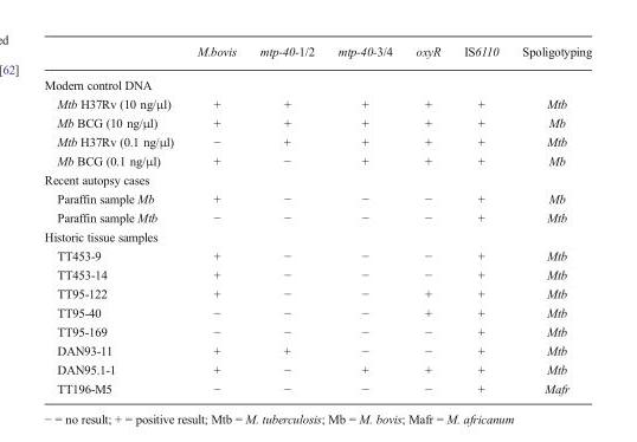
<table><thead><tr><td></td><td>M.bovis</td><td>mtp-40-1/2</td><td>mtp-40-3/4</td><td>oxyR</td><td>IS6110</td><td>Spoligotyping</td></tr></thead><tbody><tr><td colspan="7">Modern control DNA</td></tr><tr><td>Mtb H37Rv (10 ng/μl)</td><td>+</td><td>+</td><td>+</td><td>+</td><td>+</td><td>Mtb</td></tr><tr><td>Mb BCG (10 ng/μl)</td><td>+</td><td>+</td><td>+</td><td>+</td><td>+</td><td>Mb</td></tr><tr><td>Mtb H37Rv (0.1 ng/μl)</td><td>−</td><td>+</td><td>+</td><td>+</td><td>+</td><td>Mtb</td></tr><tr><td>Mb BCG (0.1 ng/μl)</td><td>+</td><td>−</td><td>+</td><td>+</td><td>+</td><td>Mb</td></tr><tr><td colspan="7">Recent autopsy cases</td></tr><tr><td>Paraffin sample Mb</td><td>+</td><td>−</td><td>−</td><td>−</td><td>+</td><td>Mb</td></tr><tr><td>Paraffin sample Mtb</td><td>−</td><td>−</td><td>−</td><td>−</td><td>+</td><td>Mtb</td></tr><tr><td colspan="7">Historic tissue samples</td></tr><tr><td>TT453-9</td><td>+</td><td>−</td><td>−</td><td>−</td><td>+</td><td>Mtb</td></tr><tr><td>TT453-14</td><td>+</td><td>−</td><td>−</td><td>−</td><td>+</td><td>Mtb</td></tr><tr><td>TT95-122</td><td>+</td><td>−</td><td>−</td><td>+</td><td>+</td><td>Mtb</td></tr><tr><td>TT95-40</td><td>−</td><td>−</td><td>−</td><td>+</td><td>+</td><td>Mtb</td></tr><tr><td>TT95-169</td><td>−</td><td>−</td><td>−</td><td>−</td><td>+</td><td>Mtb</td></tr><tr><td>DAN93-11</td><td>+</td><td>+</td><td>−</td><td>−</td><td>+</td><td>Mtb</td></tr><tr><td>DAN95.1-1</td><td>+</td><td>−</td><td>+</td><td>+</td><td>+</td><td>Mtb</td></tr><tr><td>TT196-M5</td><td>−</td><td>−</td><td>−</td><td>−</td><td>+</td><td>Mafr</td></tr></tbody></table>